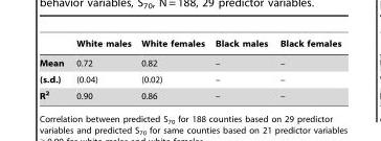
<table><thead><tr><td></td><td>White males</td><td>White females</td><td>Black males</td><td>Black females</td></tr></thead><tbody><tr><td>Mean</td><td>0.72</td><td>0.82</td><td>–</td><td>–</td></tr><tr><td>(s.d.)</td><td>(0.04)</td><td>(0.02)</td><td>–</td><td>–</td></tr><tr><td>R<sup>2</sup></td><td>0.90</td><td>0.86</td><td>–</td><td>–</td></tr></tbody></table>